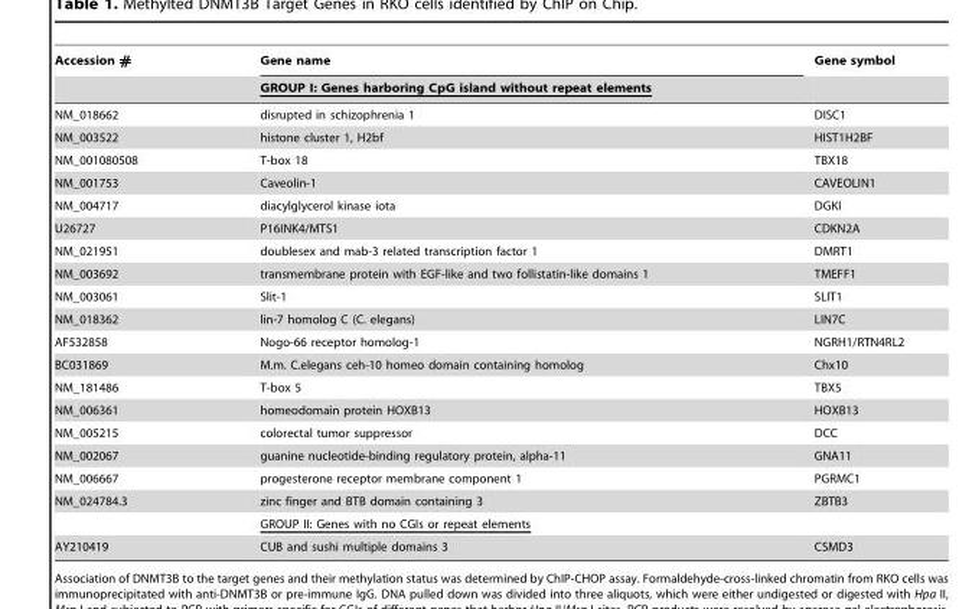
<table><thead><tr><td rowspan="2">Accession #</td><td rowspan="2">Gene name GROUP I: Genes harboring CpG island without repeat elements</td><td rowspan="2">Gene symbol</td></tr><tr></tr></thead><tbody><tr><td>NM_018662</td><td>disrupted in schizophrenia 1</td><td>DISC1</td></tr><tr><td>NM_003522</td><td>histone cluster 1, H2bf</td><td>HIST1H2BF</td></tr><tr><td>NM_001080508</td><td>T-box 18</td><td>TBX18</td></tr><tr><td>NM_001753</td><td>Caveolin-1</td><td>CAVEOLIN1</td></tr><tr><td>NM_004717</td><td>diacylglycerol kinase iota</td><td>DGKI</td></tr><tr><td>U26727</td><td>P16INK4/MTS1</td><td>CDKN2A</td></tr><tr><td>NM_021951</td><td>doublesex and mab-3 related transcription factor 1</td><td>DMRT1</td></tr><tr><td>NM_003692</td><td>transmembrane protein with EGF-like and two follistatin-like domains 1</td><td>TMEFF1</td></tr><tr><td>NM_003061</td><td>Slit-1</td><td>SLIT1</td></tr><tr><td>NM_018362</td><td>lin-7 homolog C (C. elegans)</td><td>LIN7C</td></tr><tr><td>AF532858</td><td>Nogo-66 receptor homolog-1</td><td>NGRH1/RTN4RL2</td></tr><tr><td>BC031869</td><td>M.m. C.elegans ceh-10 homeo domain containing homolog</td><td>Chx10</td></tr><tr><td>NM_181486</td><td>T-box 5</td><td>TBX5</td></tr><tr><td>NM_006361</td><td>homeodomain protein HOXB13</td><td>HOXB13</td></tr><tr><td>NM_005215</td><td>colorectal tumor suppressor</td><td>DCC</td></tr><tr><td>NM_002067</td><td>guanine nucleotide-binding regulatory protein, alpha-11</td><td>GNA11</td></tr><tr><td>NM_006667</td><td>progesterone receptor membrane component 1</td><td>PGRMC1</td></tr><tr><td rowspan="2">NM_024784.3</td><td>zinc finger and BTB domain containing 3</td><td>ZBTB3</td></tr><tr><td>GROUP II: Genes with no CGIs or repeat elements</td><td></td></tr><tr><td>AY210419</td><td>CUB and sushi multiple domains 3</td><td>CSMD3</td></tr></tbody></table>